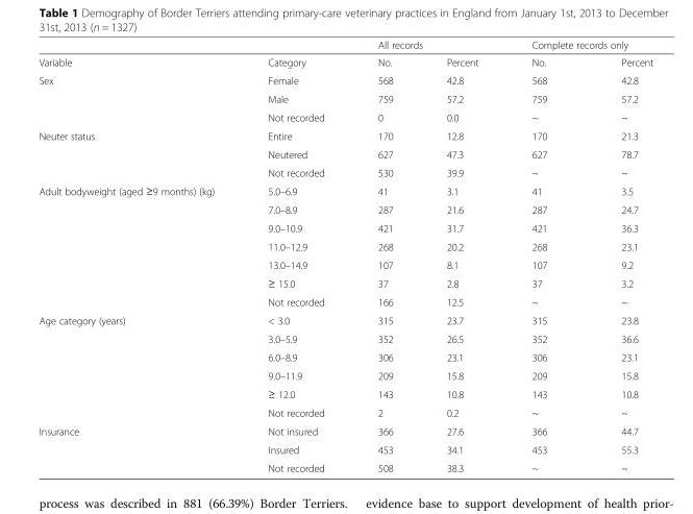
<table><thead><tr><td rowspan="2">Variable</td><td rowspan="2">Category</td><td colspan="2">All records</td><td colspan="2">Complete records only</td></tr><tr><td>No.</td><td>Percent</td><td>No.</td><td>Percent</td></tr></thead><tbody><tr><td rowspan="3">Sex</td><td>Female</td><td>568</td><td>42.8</td><td>568</td><td>42.8</td></tr><tr><td>Male</td><td>759</td><td>57.2</td><td>759</td><td>57.2</td></tr><tr><td>Not recorded</td><td>0</td><td>0.0</td><td>~</td><td>~</td></tr><tr><td rowspan="3">Neuter status</td><td>Entire</td><td>170</td><td>12.8</td><td>170</td><td>21.3</td></tr><tr><td>Neutered</td><td>627</td><td>47.3</td><td>627</td><td>78.7</td></tr><tr><td>Not recorded</td><td>530</td><td>39.9</td><td>~</td><td>~</td></tr><tr><td rowspan="7">Adult bodyweight (aged ≥9 months) (kg)</td><td>5.0–6.9</td><td>41</td><td>3.1</td><td>41</td><td>3.5</td></tr><tr><td>7.0–8.9</td><td>287</td><td>21.6</td><td>287</td><td>24.7</td></tr><tr><td>9.0–10.9</td><td>421</td><td>31.7</td><td>421</td><td>36.3</td></tr><tr><td>11.0–12.9</td><td>268</td><td>20.2</td><td>268</td><td>23.1</td></tr><tr><td>13.0–14.9</td><td>107</td><td>8.1</td><td>107</td><td>9.2</td></tr><tr><td>≥ 15.0</td><td>37</td><td>2.8</td><td>37</td><td>3.2</td></tr><tr><td>Not recorded</td><td>166</td><td>12.5</td><td>~</td><td>~</td></tr><tr><td rowspan="6">Age category (years)</td><td>&lt; 3.0</td><td>315</td><td>23.7</td><td>315</td><td>23.8</td></tr><tr><td>3.0–5.9</td><td>352</td><td>26.5</td><td>352</td><td>36.6</td></tr><tr><td>6.0–8.9</td><td>306</td><td>23.1</td><td>306</td><td>23.1</td></tr><tr><td>9.0–11.9</td><td>209</td><td>15.8</td><td>209</td><td>15.8</td></tr><tr><td>≥ 12.0</td><td>143</td><td>10.8</td><td>143</td><td>10.8</td></tr><tr><td>Not recorded</td><td>2</td><td>0.2</td><td>~</td><td>~</td></tr><tr><td rowspan="3">Insurance</td><td>Not insured</td><td>366</td><td>27.6</td><td>366</td><td>44.7</td></tr><tr><td>Insured</td><td>453</td><td>34.1</td><td>453</td><td>55.3</td></tr><tr><td>Not recorded</td><td>508</td><td>38.3</td><td>~</td><td>~</td></tr></tbody></table>